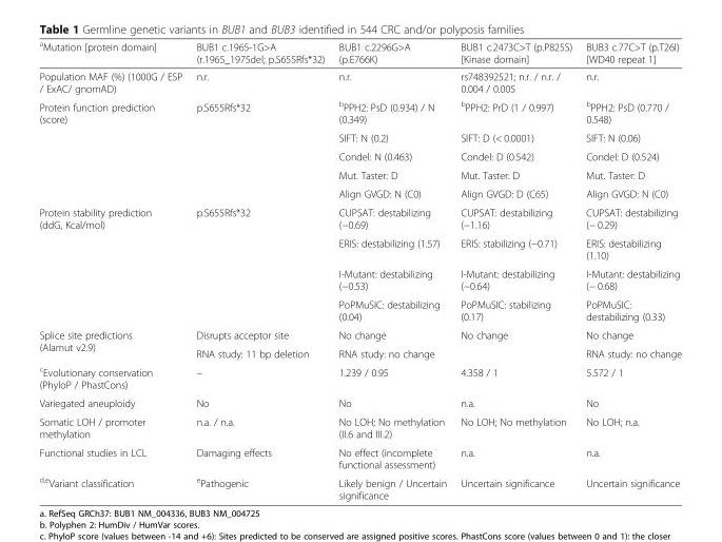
<table><thead><tr><td><sup>a</sup>Mutation [protein domain]</td><td>BUB1 c.1965-1G&gt;A (r.1965_1975del; p.S655Rfs*32)</td><td>BUB1 c.2296G&gt;A (p.E766K)</td><td>BUB1 c.2473C&gt;T (p.P825S) [Kinase domain]</td><td>BUB3 c.77C&gt;T (p.T26I) [WD40 repeat 1]</td></tr></thead><tbody><tr><td>Population MAF (%) (1000G / ESP / ExAC/ gnomAD)</td><td>n.r.</td><td>n.r.</td><td>rs748392521; n.r. / n.r. / 0.004 / 0.005</td><td>n.r.</td></tr><tr><td rowspan="5">Protein function prediction (score)</td><td rowspan="5">p.S655Rfs*32</td><td><sup>b</sup>PPH2: PsD (0.934) / N (0.349)</td><td><sup>b</sup>PPH2: PrD (1 / 0.997)</td><td><sup>b</sup>PPH2: PsD (0.770 / 0.548)</td></tr><tr><td>SIFT: N (0.2)</td><td>SIFT: D (&lt; 0.0001)</td><td>SIFT: N (0.06)</td></tr><tr><td>Condel: N (0.463)</td><td>Condel: D (0.542)</td><td>Condel: D (0.524)</td></tr><tr><td>Mut. Taster: D</td><td>Mut. Taster: D</td><td>Mut. Taster: D</td></tr><tr><td>Align GVGD: N (C0)</td><td>Align GVGD: D (C65)</td><td>Align GVGD: N (C0)</td></tr><tr><td rowspan="4">Protein stability prediction (ddG, Kcal/mol)</td><td rowspan="4">p.S655Rfs*32</td><td>CUPSAT: destabilizing (−0.69)</td><td>CUPSAT: destabilizing (−1.16)</td><td>CUPSAT: destabilizing (− 0.29)</td></tr><tr><td>ERIS: destabilizing (1.57)</td><td>ERIS: stabilizing (−0.71)</td><td>ERIS: destabilizing (1.10)</td></tr><tr><td>I-Mutant: destabilizing (−0.53)</td><td>I-Mutant: destabilizing (−0.64)</td><td>I-Mutant: destabilizing (− 0.68)</td></tr><tr><td>PoPMuSIC: destabilizing (0.04)</td><td>PoPMuSIC: stabilizing (0.17)</td><td>PoPMuSIC: destabilizing (0.33)</td></tr><tr><td rowspan="2">Splice site predictions (Alamut v2.9)</td><td>Disrupts acceptor site</td><td>No change</td><td rowspan="2">No change</td><td>No change</td></tr><tr><td>RNA study: 11 bp deletion</td><td>RNA study: no change</td><td>RNA study: no change</td></tr><tr><td><sup>c</sup>Evolutionary conservation (PhyloP / PhastCons)</td><td>–</td><td>1.239 / 0.95</td><td>4.358 / 1</td><td>5.572 / 1</td></tr><tr><td>Variegated aneuploidy</td><td>No</td><td>No</td><td>n.a.</td><td>No</td></tr><tr><td>Somatic LOH / promoter methylation</td><td>n.a. / n.a.</td><td>No LOH; No methylation (II.6 and III.2)</td><td>No LOH; No methylation</td><td>No LOH; n.a.</td></tr><tr><td>Functional studies in LCL</td><td>Damaging effects</td><td>No effect (incomplete functional assessment)</td><td>n.a.</td><td>n.a.</td></tr><tr><td><sup>d,e</sup>Variant classification</td><td><sup>e</sup>Pathogenic</td><td>Likely benign / Uncertain significance</td><td>Uncertain significance</td><td>Uncertain significance</td></tr></tbody></table>